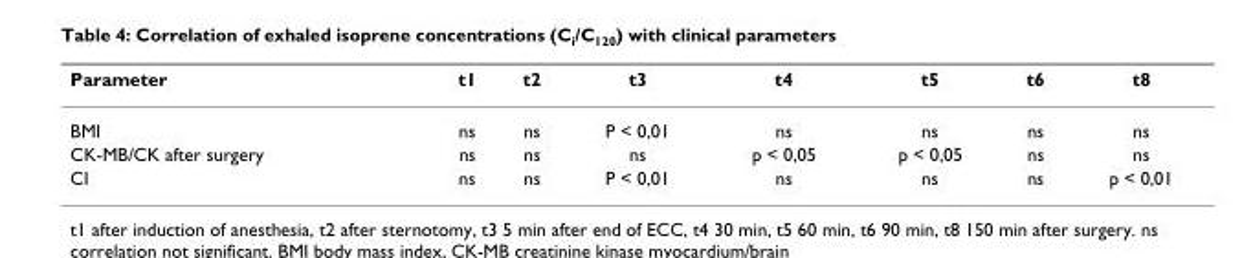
<table><thead><tr><td>Parameter</td><td>t1</td><td>t2</td><td>t3</td><td>t4</td><td>t5</td><td>t6</td><td>t8</td></tr></thead><tbody><tr><td>BMI</td><td>ns</td><td>ns</td><td>P &lt; 0,01</td><td>ns</td><td>ns</td><td>ns</td><td>ns</td></tr><tr><td>CK-MB/CK after surgery</td><td>ns</td><td>ns</td><td>ns</td><td>p &lt; 0,05</td><td>p &lt; 0,05</td><td>ns</td><td>ns</td></tr><tr><td>CI</td><td>ns</td><td>ns</td><td>P &lt; 0,01</td><td>ns</td><td>ns</td><td>ns</td><td>p &lt; 0,01</td></tr></tbody></table>